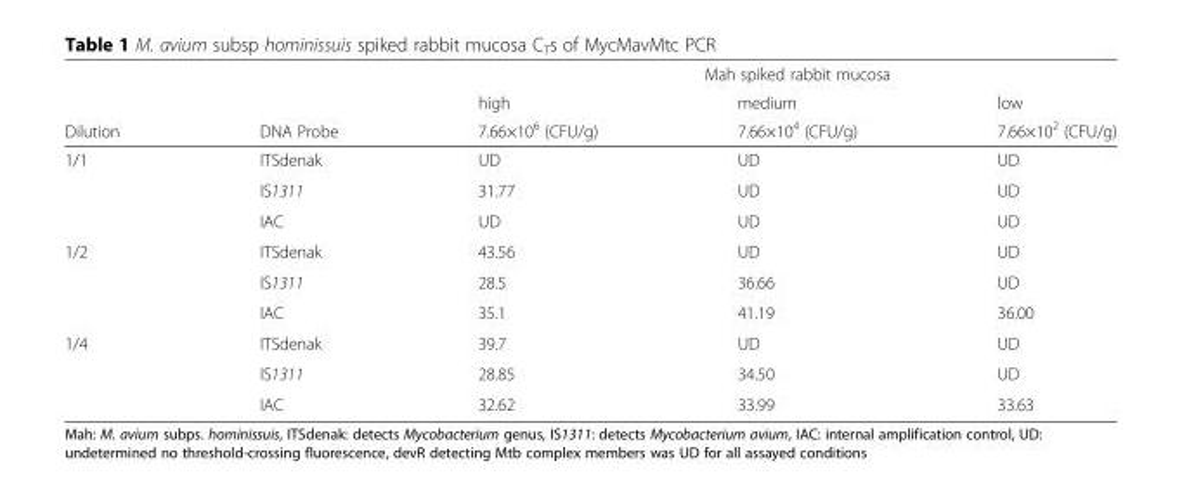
<table><thead><tr><td rowspan="3">Dilution</td><td rowspan="3">DNA Probe</td><td colspan="3">Mah spiked rabbit mucosa</td></tr><tr><td rowspan="2">high 7.66×10<sup>6</sup> (CFU/g)</td><td rowspan="2">medium 7.66×10<sup>4</sup> (CFU/g)</td><td rowspan="2">low 7.66×10<sup>2</sup> (CFU/g)</td></tr><tr></tr></thead><tbody><tr><td rowspan="3">1/1</td><td>ITSdenak</td><td>UD</td><td>UD</td><td>UD</td></tr><tr><td>IS1311</td><td>31.77</td><td>UD</td><td>UD</td></tr><tr><td>IAC</td><td>UD</td><td>UD</td><td>UD</td></tr><tr><td rowspan="3">1/2</td><td>ITSdenak</td><td>43.56</td><td>UD</td><td>UD</td></tr><tr><td>IS1311</td><td>28.5</td><td>36.66</td><td>UD</td></tr><tr><td>IAC</td><td>35.1</td><td>41.19</td><td>36.00</td></tr><tr><td rowspan="3">1/4</td><td>ITSdenak</td><td>39.7</td><td>UD</td><td>UD</td></tr><tr><td>IS1311</td><td>28.85</td><td>34.50</td><td>UD</td></tr><tr><td>IAC</td><td>32.62</td><td>33.99</td><td>33.63</td></tr></tbody></table>